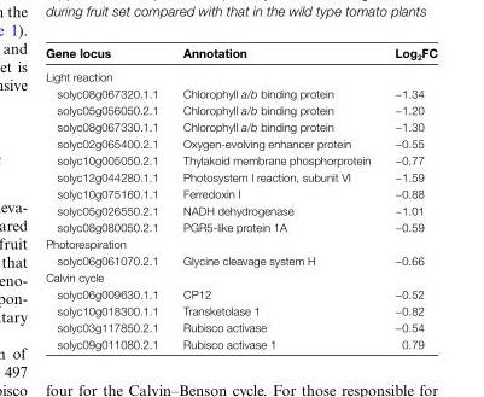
<table><thead><tr><td>Gene locus</td><td>Annotation</td><td>Log<sub>2</sub>FC</td></tr></thead><tbody><tr><td colspan="3">Light reaction</td></tr><tr><td>solyc08g067320.1.1</td><td>Chlorophyll a/b binding protein</td><td>−1.34</td></tr><tr><td>solyc05g056050.2.1</td><td>Chlorophyll a/b binding protein</td><td>−1.20</td></tr><tr><td>solyc08g067330.1.1</td><td>Chlorophyll a/b binding protein</td><td>−1.30</td></tr><tr><td>solyc02g065400.2.1</td><td>Oxygen-evolving enhancer protein</td><td>−0.55</td></tr><tr><td>solyc10g005050.2.1</td><td>Thylakoid membrane phosphorprotein</td><td>−0.77</td></tr><tr><td>solyc12g044280.1.1</td><td>Photosystem I reaction, subunit VI</td><td>−1.59</td></tr><tr><td>solyc10g075160.1.1</td><td>Ferredoxin I</td><td>−0.88</td></tr><tr><td>solyc05g026550.2.1</td><td>NADH dehydrogenase</td><td>−1.01</td></tr><tr><td>solyc08g080050.2.1</td><td>PGR5-like protein 1A</td><td>−0.59</td></tr><tr><td colspan="3">Photorespiration</td></tr><tr><td>solyc06g061070.2.1</td><td>Glycine cleavage system H</td><td>−0.66</td></tr><tr><td colspan="3">Calvin cycle</td></tr><tr><td>solyc06g009630.1.1</td><td>CP12</td><td>−0.52</td></tr><tr><td>solyc10g018300.1.1</td><td>Transketolase 1</td><td>−0.82</td></tr><tr><td>solyc03g117850.2.1</td><td>Rubisco activase</td><td>−0.54</td></tr><tr><td>solyc09g011080.2.1</td><td>Rubisco activase 1</td><td>0.79</td></tr></tbody></table>